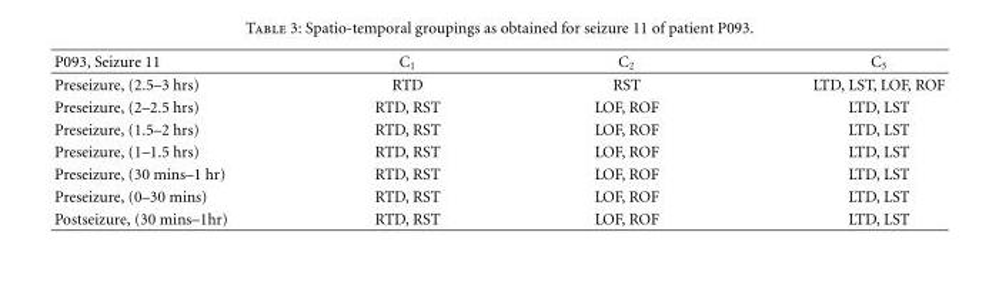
<table><thead><tr><td>P093, Seizure 11</td><td>C<sub>1</sub></td><td>C<sub>2</sub></td><td>C<sub>3</sub></td></tr></thead><tbody><tr><td>Preseizure, (2.5–3 hrs)</td><td>RTD</td><td>RST</td><td>LTD, LST, LOF, ROF</td></tr><tr><td>Preseizure, (2–2.5 hrs)</td><td>RTD, RST</td><td>LOF, ROF</td><td>LTD, LST</td></tr><tr><td>Preseizure, (1.5–2 hrs)</td><td>RTD, RST</td><td>LOF, ROF</td><td>LTD, LST</td></tr><tr><td>Preseizure, (1–1.5 hrs)</td><td>RTD, RST</td><td>LOF, ROF</td><td>LTD, LST</td></tr><tr><td>Preseizure, (30 mins–1 hr)</td><td>RTD, RST</td><td>LOF, ROF</td><td>LTD, LST</td></tr><tr><td>Preseizure, (0–30 mins)</td><td>RTD, RST</td><td>LOF, ROF</td><td>LTD, LST</td></tr><tr><td>Postseizure, (30 mins–1hr)</td><td>RTD, RST</td><td>LOF, ROF</td><td>LTD, LST</td></tr></tbody></table>